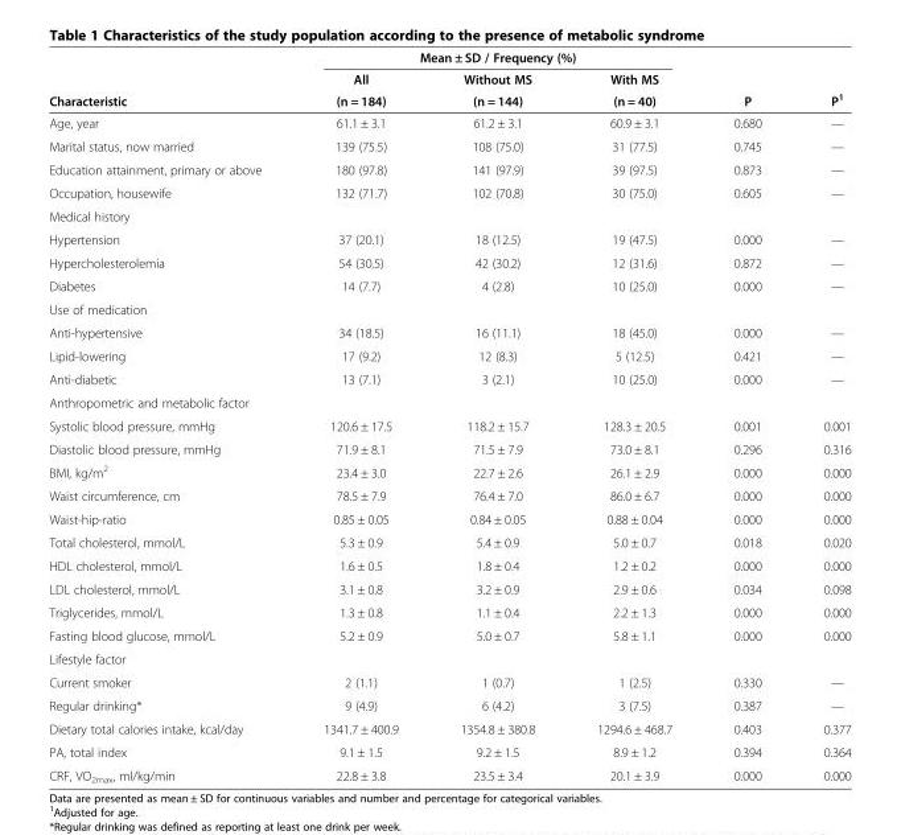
<table><thead><tr><td rowspan="3">Characteristic</td><td colspan="3">Mean ± SD / Frequency (%)</td><td rowspan="3">P</td><td rowspan="3">P<sup>1</sup></td></tr><tr><td rowspan="2">All (n = 184)</td><td rowspan="2">Without MS (n = 144)</td><td rowspan="2">With MS (n = 40)</td></tr><tr></tr></thead><tbody><tr><td>Age, year</td><td>61.1 ± 3.1</td><td>61.2 ± 3.1</td><td>60.9 ± 3.1</td><td>0.680</td><td>—</td></tr><tr><td>Marital status, now married</td><td>139 (75.5)</td><td>108 (75.0)</td><td>31 (77.5)</td><td>0.745</td><td>—</td></tr><tr><td>Education attainment, primary or above</td><td>180 (97.8)</td><td>141 (97.9)</td><td>39 (97.5)</td><td>0.873</td><td>—</td></tr><tr><td>Occupation, housewife</td><td>132 (71.7)</td><td>102 (70.8)</td><td>30 (75.0)</td><td>0.605</td><td>—</td></tr><tr><td colspan="6">Medical history</td></tr><tr><td>Hypertension</td><td>37 (20.1)</td><td>18 (12.5)</td><td>19 (47.5)</td><td>0.000</td><td>—</td></tr><tr><td>Hypercholesterolemia</td><td>54 (30.5)</td><td>42 (30.2)</td><td>12 (31.6)</td><td>0.872</td><td>—</td></tr><tr><td>Diabetes</td><td>14 (7.7)</td><td>4 (2.8)</td><td>10 (25.0)</td><td>0.000</td><td>—</td></tr><tr><td colspan="6">Use of medication</td></tr><tr><td>Anti-hypertensive</td><td>34 (18.5)</td><td>16 (11.1)</td><td>18 (45.0)</td><td>0.000</td><td>—</td></tr><tr><td>Lipid-lowering</td><td>17 (9.2)</td><td>12 (8.3)</td><td>5 (12.5)</td><td>0.421</td><td>—</td></tr><tr><td>Anti-diabetic</td><td>13 (7.1)</td><td>3 (2.1)</td><td>10 (25.0)</td><td>0.000</td><td>—</td></tr><tr><td colspan="6">Anthropometric and metabolic factor</td></tr><tr><td>Systolic blood pressure, mmHg</td><td>120.6 ± 17.5</td><td>118.2 ± 15.7</td><td>128.3 ± 20.5</td><td>0.001</td><td>0.001</td></tr><tr><td>Diastolic blood pressure, mmHg</td><td>71.9 ± 8.1</td><td>71.5 ± 7.9</td><td>73.0 ± 8.1</td><td>0.296</td><td>0.316</td></tr><tr><td>BMI, kg/m<sup>2</sup></td><td>23.4 ± 3.0</td><td>22.7 ± 2.6</td><td>26.1 ± 2.9</td><td>0.000</td><td>0.000</td></tr><tr><td>Waist circumference, cm</td><td>78.5 ± 7.9</td><td>76.4 ± 7.0</td><td>86.0 ± 6.7</td><td>0.000</td><td>0.000</td></tr><tr><td>Waist-hip-ratio</td><td>0.85 ± 0.05</td><td>0.84 ± 0.05</td><td>0.88 ± 0.04</td><td>0.000</td><td>0.000</td></tr><tr><td>Total cholesterol, mmol/L</td><td>5.3 ± 0.9</td><td>5.4 ± 0.9</td><td>5.0 ± 0.7</td><td>0.018</td><td>0.020</td></tr><tr><td>HDL cholesterol, mmol/L</td><td>1.6 ± 0.5</td><td>1.8 ± 0.4</td><td>1.2 ± 0.2</td><td>0.000</td><td>0.000</td></tr><tr><td>LDL cholesterol, mmol/L</td><td>3.1 ± 0.8</td><td>3.2 ± 0.9</td><td>2.9 ± 0.6</td><td>0.034</td><td>0.098</td></tr><tr><td>Triglycerides, mmol/L</td><td>1.3 ± 0.8</td><td>1.1 ± 0.4</td><td>2.2 ± 1.3</td><td>0.000</td><td>0.000</td></tr><tr><td>Fasting blood glucose, mmol/L</td><td>5.2 ± 0.9</td><td>5.0 ± 0.7</td><td>5.8 ± 1.1</td><td>0.000</td><td>0.000</td></tr><tr><td colspan="6">Lifestyle factor</td></tr><tr><td>Current smoker</td><td>2 (1.1)</td><td>1 (0.7)</td><td>1 (2.5)</td><td>0.330</td><td>—</td></tr><tr><td>Regular drinking*</td><td>9 (4.9)</td><td>6 (4.2)</td><td>3 (7.5)</td><td>0.387</td><td>—</td></tr><tr><td>Dietary total calories intake, kcal/day</td><td>1341.7 ± 400.9</td><td>1354.8 ± 380.8</td><td>1294.6 ± 468.7</td><td>0.403</td><td>0.377</td></tr><tr><td>PA, total index</td><td>9.1 ± 1.5</td><td>9.2 ± 1.5</td><td>8.9 ± 1.2</td><td>0.394</td><td>0.364</td></tr><tr><td>CRF, VO<sub>2max</sub>, ml/kg/min</td><td>22.8 ± 3.8</td><td>23.5 ± 3.4</td><td>20.1 ± 3.9</td><td>0.000</td><td>0.000</td></tr></tbody></table>